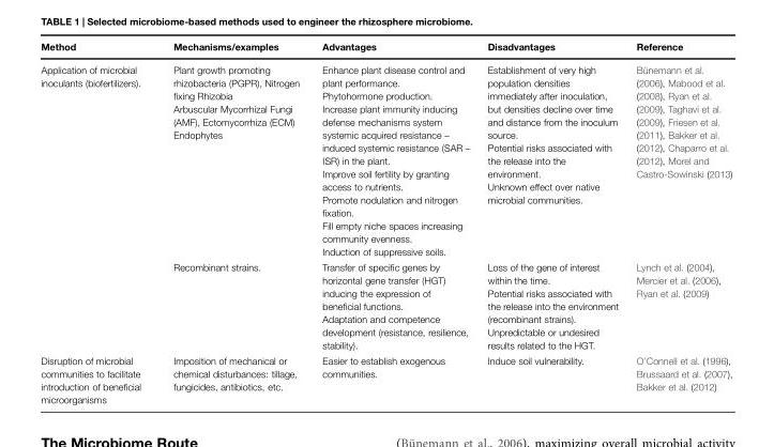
<table><thead><tr><td>Method</td><td>Mechanisms/examples</td><td>Advantages</td><td>Disadvantages</td><td>Reference</td></tr></thead><tbody><tr><td rowspan="2">Application of microbial inoculants (biofertilizers).</td><td>Plant growth promoting rhizobacteria (PGPR), Nitrogen fixing Rhizobia Arbuscular Mycorrhizal Fungi (AMF), Ectomycorrhiza (ECM) Endophytes</td><td>Enhance plant disease control and plant performance. Phytohormone production. Increase plant immunity inducing defense mechanisms system systemic acquired resistance – induced systemic resistance (SAR – ISR) in the plant. Improve soil fertility by granting access to nutrients. Promote nodulation and nitrogen fixation. Fill empty niche spaces increasing community evenness. Induction of suppressive soils.</td><td>Establishment of very high population densities immediately after inoculation, but densities decline over time and distance from the inoculum source. Potential risks associated with the release into the environment. Unknown effect over native microbial communities.</td><td>Bünemann et al. (2006), Mabood et al. (2008), Ryan et al. (2009), Taghavi et al. (2009), Friesen et al. (2011), Bakker et al. (2012), Chaparro et al. (2012), Morel and Castro-Sowinski (2013)</td></tr><tr><td>Recombinant strains.</td><td>Transfer of specific genes by horizontal gene transfer (HGT) inducing the expression of beneficial functions. Adaptation and competence development (resistance, resilience, stability).</td><td>Loss of the gene of interest within the time. Potential risks associated with the release into the environment (recombinant strains). Unpredictable or undesired results related to the HGT.</td><td>Lynch et al. (2004), Mercier et al. (2006), Ryan et al. (2009)</td></tr><tr><td>Disruption of microbial communities to facilitate introduction of beneficial microorganisms</td><td>Imposition of mechanical or chemical disturbances: tillage, fungicides, antibiotics, etc.</td><td>Easier to establish exogenous communities.</td><td>Induce soil vulnerability.</td><td>O’Connell et al. (1996), Brussaard et al. (2007), Bakker et al. (2012)</td></tr></tbody></table>